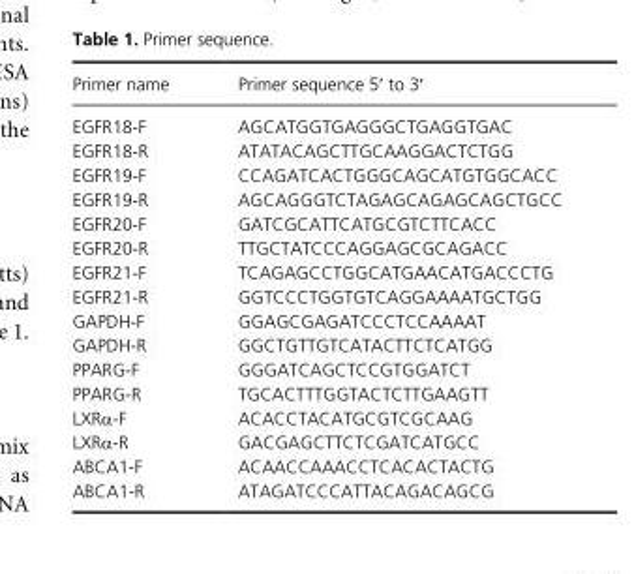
<table><thead><tr><td>Primer name</td><td>Primer sequence 5′ to 3′</td></tr></thead><tbody><tr><td>EGFR18- F</td><td>AGCATGGTGAGGGCTGAGGTGAC</td></tr><tr><td>EGFR18- R</td><td>ATATACAGCTTGCAAGGACTCTGG</td></tr><tr><td>EGFR19- F</td><td>CCAGATCACTGGGCAGCATGTGGCACC</td></tr><tr><td>EGFR19- R</td><td>AGCAGGGTCTAGAGCAGAGCAGCTGCC</td></tr><tr><td>EGFR20- F</td><td>GATCGCATTCATGCGTCTTCACC</td></tr><tr><td>EGFR20- R</td><td>TTGCTATCCCAGGAGCGCAGACC</td></tr><tr><td>EGFR21- F</td><td>TCAGAGCCTGGCATGAACATGACCCTG</td></tr><tr><td>EGFR21- R</td><td>GGTCCCTGGTGTCAGGAAAATGCTGG</td></tr><tr><td>GAPDH- F</td><td>GGAGCGAGATCCCTCCAAAAT</td></tr><tr><td>GAPDH- R</td><td>GGCTGTTGTCATACTTCTCATGG</td></tr><tr><td>PPARG- F</td><td>GGGATCAGCTCCGTGGATCT</td></tr><tr><td>PPARG- R</td><td>TGCACTTTGGTACTCTTGAAGTT</td></tr><tr><td>LXRα- F</td><td>ACACCTACATGCGTCGCAAG</td></tr><tr><td>LXRα- R</td><td>GACGAGCTTCTCGATCATGCC</td></tr><tr><td>ABCA1- F</td><td>ACAACCAAACCTCACACTACTG</td></tr><tr><td>ABCA1- R</td><td>ATAGATCCCATTACAGACAGCG</td></tr></tbody></table>